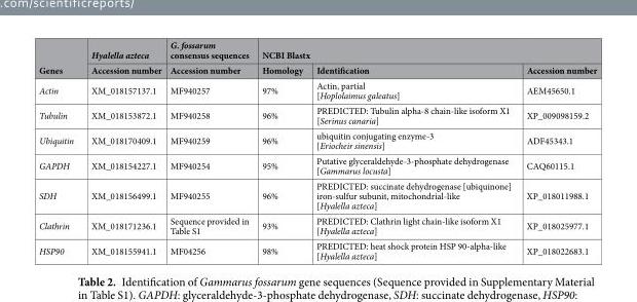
<table><thead><tr><td rowspan="2">Genes</td><td rowspan="2">Hyalella azteca Accession number</td><td rowspan="2">G. fossarum consensus sequences Accession number</td><td colspan="3">NCBI Blastx</td></tr><tr><td>Homology</td><td>Identification</td><td>Accession number</td></tr></thead><tbody><tr><td>Actin</td><td>XM_018157137.1</td><td>MF940257</td><td>97%</td><td>Actin, partial [Hoplolaimus galeatus]</td><td>AEM45650.1</td></tr><tr><td>Tubulin</td><td>XM_018153872.1</td><td>MF940258</td><td>96%</td><td>PREDICTED: Tubulin alpha-8 chain-like isoform X1 [Serinus canaria]</td><td>XP_009098159.2</td></tr><tr><td>Ubiquitin</td><td>XM_018170409.1</td><td>MF940259</td><td>96%</td><td>ubiquitin conjugating enzyme-3 [Eriocheir sinensis]</td><td>ADF45343.1</td></tr><tr><td>GAPDH</td><td>XM_018154227.1</td><td>MF940254</td><td>95%</td><td>Putative glyceraldehyde-3-phosphate dehydrogenase [Gammarus locusta]</td><td>CAQ60115.1</td></tr><tr><td>SDH</td><td>XM_018156499.1</td><td>MF940255</td><td>96%</td><td>PREDICTED: succinate dehydrogenase [ubiquinone] iron-sulfur subunit, mitochondrial-like [Hyalella azteca]</td><td>XP_018011988.1</td></tr><tr><td>Clathrin</td><td>XM_018171236.1</td><td>Sequence provided in Table S1</td><td>93%</td><td>PREDICTED: Clathrin light chain-like isoform X1 [Hyalella azteca]</td><td>XP_018025977.1</td></tr><tr><td>HSP90</td><td>XM_018155941.1</td><td>MF04256</td><td>98%</td><td>PREDICTED: heat shock protein HSP 90-alpha-like [Hyalella azteca]</td><td>XP_018022683.1</td></tr></tbody></table>